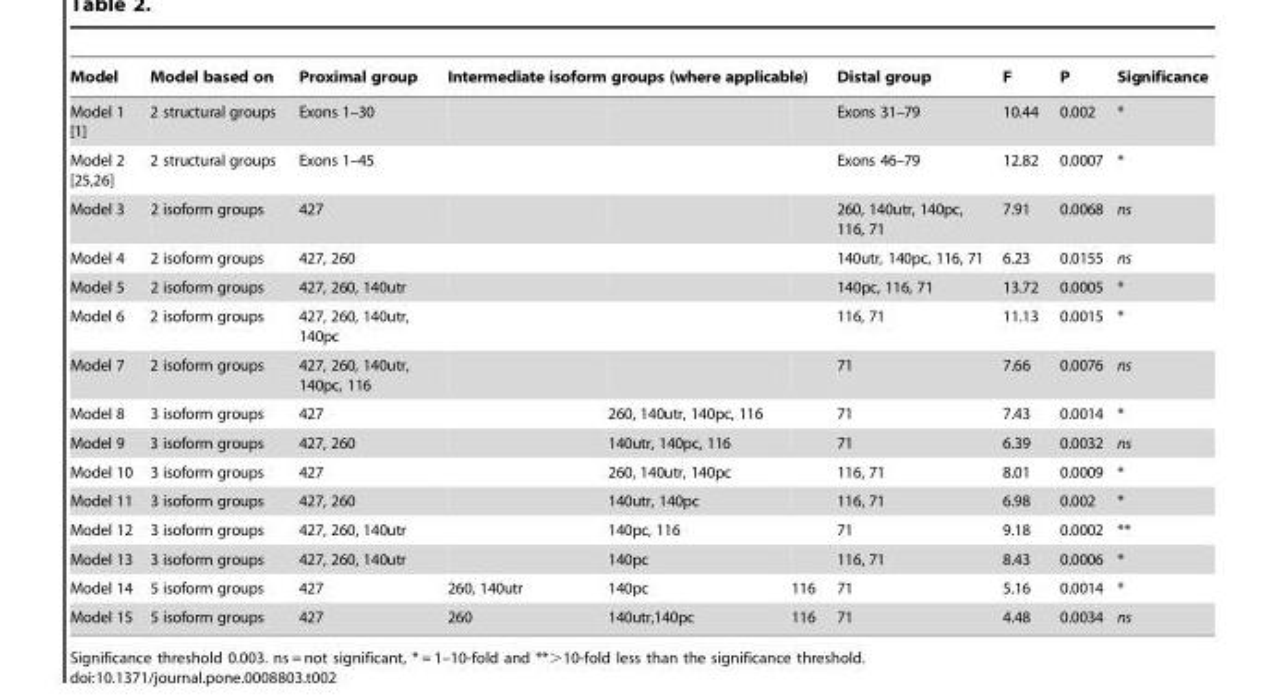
<table><thead><tr><td rowspan="2">Model Model 1 [1]</td><td rowspan="2">Model based on 2 structural groups</td><td rowspan="2">Proximal group Exons 1–30</td><td colspan="3">Intermediate isoform groups (where applicable)</td><td rowspan="2">Distal group Exons 31–79</td><td rowspan="2">F 10.44</td><td rowspan="2">P 0.002</td><td rowspan="2">Significance *</td></tr><tr><td></td><td></td><td></td></tr></thead><tbody><tr><td>Model 2 [25,26]</td><td>2 structural groups</td><td>Exons 1–45</td><td></td><td></td><td></td><td>Exons 46–79</td><td>12.82</td><td>0.0007</td><td>*</td></tr><tr><td>Model 3</td><td>2 isoform groups</td><td>427</td><td></td><td></td><td></td><td>260, 140utr, 140pc, 116, 71</td><td>7.91</td><td>0.0068</td><td>ns</td></tr><tr><td>Model 4</td><td>2 isoform groups</td><td>427, 260</td><td></td><td></td><td></td><td>140utr, 140pc, 116, 71</td><td>6.23</td><td>0.0155</td><td>ns</td></tr><tr><td>Model 5</td><td>2 isoform groups</td><td>427, 260, 140utr</td><td></td><td></td><td></td><td>140pc, 116, 71</td><td>13.72</td><td>0.0005</td><td>*</td></tr><tr><td>Model 6</td><td>2 isoform groups</td><td>427, 260, 140utr, 140pc</td><td></td><td></td><td></td><td>116, 71</td><td>11.13</td><td>0.0015</td><td>*</td></tr><tr><td>Model 7</td><td>2 isoform groups</td><td>427, 260, 140utr, 140pc, 116</td><td></td><td></td><td></td><td>71</td><td>7.66</td><td>0.0076</td><td>ns</td></tr><tr><td>Model 8</td><td>3 isoform groups</td><td>427</td><td></td><td>260, 140utr, 140pc, 116</td><td></td><td>71</td><td>7.43</td><td>0.0014</td><td>*</td></tr><tr><td>Model 9</td><td>3 isoform groups</td><td>427, 260</td><td></td><td>140utr, 140pc, 116</td><td></td><td>71</td><td>6.39</td><td>0.0032</td><td>ns</td></tr><tr><td>Model 10</td><td>3 isoform groups</td><td>427</td><td></td><td>260, 140utr, 140pc</td><td></td><td>116, 71</td><td>8.01</td><td>0.0009</td><td>*</td></tr><tr><td>Model 11</td><td>3 isoform groups</td><td>427, 260</td><td></td><td>140utr, 140pc</td><td></td><td>116, 71</td><td>6.98</td><td>0.002</td><td>*</td></tr><tr><td>Model 12</td><td>3 isoform groups</td><td>427, 260, 140utr</td><td></td><td>140pc, 116</td><td></td><td>71</td><td>9.18</td><td>0.0002</td><td>**</td></tr><tr><td>Model 13</td><td>3 isoform groups</td><td>427, 260, 140utr</td><td></td><td>140pc</td><td></td><td>116, 71</td><td>8.43</td><td>0.0006</td><td>*</td></tr><tr><td>Model 14</td><td>5 isoform groups</td><td>427</td><td>260, 140utr</td><td>140pc</td><td>116</td><td>71</td><td>5.16</td><td>0.0014</td><td>*</td></tr><tr><td>Model 15</td><td>5 isoform groups</td><td>427</td><td>260</td><td>140utr,140pc</td><td>116</td><td>71</td><td>4.48</td><td>0.0034</td><td>ns</td></tr></tbody></table>